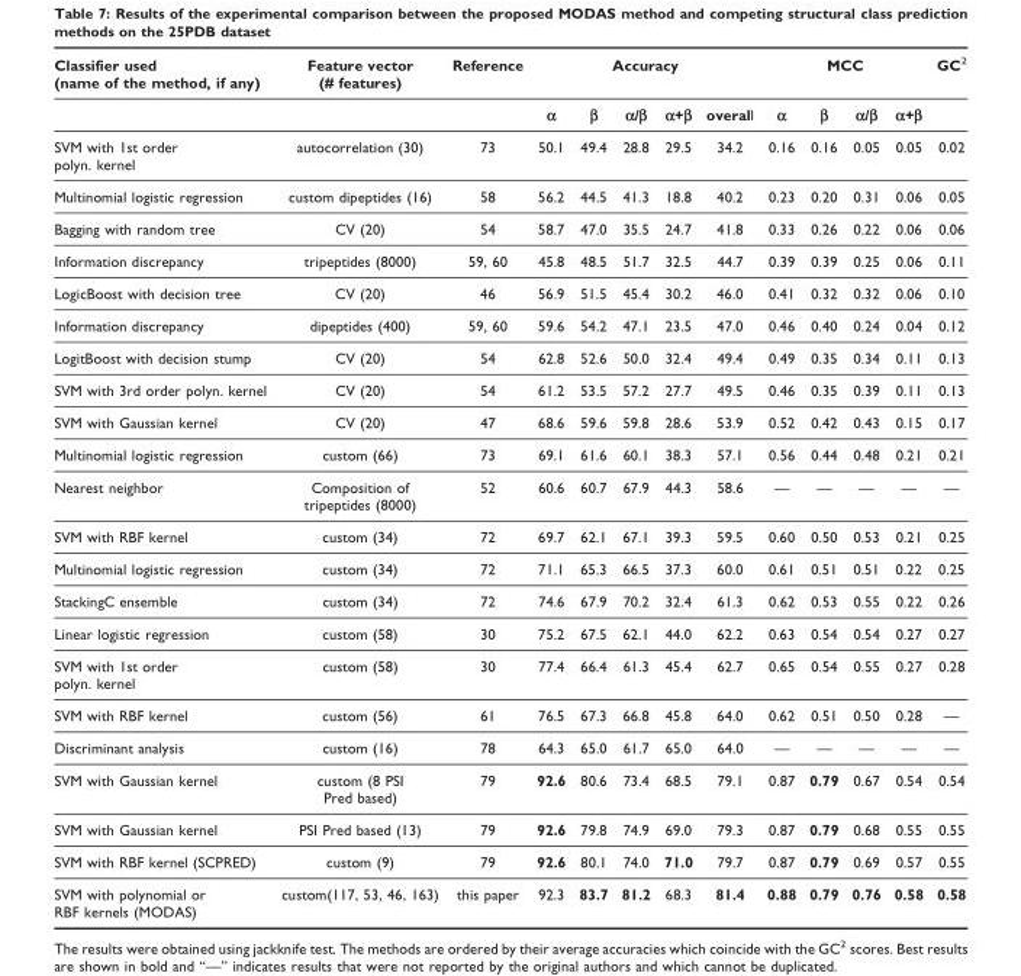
<table><thead><tr><td rowspan="2">Classifier used (name of the method, if any)</td><td rowspan="2">Feature vector (# features)</td><td rowspan="2">Reference</td><td colspan="5">Accuracy</td><td colspan="4">MCC</td><td rowspan="2">GC2</td></tr><tr><td>α</td><td>β</td><td>α/β</td><td>α+β</td><td>overall</td><td>α</td><td>β</td><td>α/β</td><td>α+β</td></tr></thead><tbody><tr><td>SVM with 1st order polyn. kernel</td><td>autocorrelation (30)</td><td>73</td><td>50.1</td><td>49.4</td><td>28.8</td><td>29.5</td><td>34.2</td><td>0.16</td><td>0.16</td><td>0.05</td><td>0.05</td><td>0.02</td></tr><tr><td>Multinomial logistic regression</td><td>custom dipeptides (16)</td><td>58</td><td>56.2</td><td>44.5</td><td>41.3</td><td>18.8</td><td>40.2</td><td>0.23</td><td>0.20</td><td>0.31</td><td>0.06</td><td>0.05</td></tr><tr><td>Bagging with random tree</td><td>CV (20)</td><td>54</td><td>58.7</td><td>47.0</td><td>35.5</td><td>24.7</td><td>41.8</td><td>0.33</td><td>0.26</td><td>0.22</td><td>0.06</td><td>0.06</td></tr><tr><td>Information discrepancy</td><td>tripeptides (8000)</td><td>59, 60</td><td>45.8</td><td>48.5</td><td>51.7</td><td>32.5</td><td>44.7</td><td>0.39</td><td>0.39</td><td>0.25</td><td>0.06</td><td>0.11</td></tr><tr><td>LogicBoost with decision tree</td><td>CV (20)</td><td>46</td><td>56.9</td><td>51.5</td><td>45.4</td><td>30.2</td><td>46.0</td><td>0.41</td><td>0.32</td><td>0.32</td><td>0.06</td><td>0.10</td></tr><tr><td>Information discrepancy</td><td>dipeptides (400)</td><td>59, 60</td><td>59.6</td><td>54.2</td><td>47.1</td><td>23.5</td><td>47.0</td><td>0.46</td><td>0.40</td><td>0.24</td><td>0.04</td><td>0.12</td></tr><tr><td>LogitBoost with decision stump</td><td>CV (20)</td><td>54</td><td>62.8</td><td>52.6</td><td>50.0</td><td>32.4</td><td>49.4</td><td>0.49</td><td>0.35</td><td>0.34</td><td>0.11</td><td>0.13</td></tr><tr><td>SVM with 3rd order polyn. kernel</td><td>CV (20)</td><td>54</td><td>61.2</td><td>53.5</td><td>57.2</td><td>27.7</td><td>49.5</td><td>0.46</td><td>0.35</td><td>0.39</td><td>0.11</td><td>0.13</td></tr><tr><td>SVM with Gaussian kernel</td><td>CV (20)</td><td>47</td><td>68.6</td><td>59.6</td><td>59.8</td><td>28.6</td><td>53.9</td><td>0.52</td><td>0.42</td><td>0.43</td><td>0.15</td><td>0.17</td></tr><tr><td>Multinomial logistic regression</td><td>custom (66)</td><td>73</td><td>69.1</td><td>61.6</td><td>60.1</td><td>38.3</td><td>57.1</td><td>0.56</td><td>0.44</td><td>0.48</td><td>0.21</td><td>0.21</td></tr><tr><td>Nearest neighbor</td><td>Composition of tripeptides (8000)</td><td>52</td><td>60.6</td><td>60.7</td><td>67.9</td><td>44.3</td><td>58.6</td><td>—</td><td>—</td><td>—</td><td>—</td><td>—</td></tr><tr><td>SVM with RBF kernel</td><td>custom (34)</td><td>72</td><td>69.7</td><td>62.1</td><td>67.1</td><td>39.3</td><td>59.5</td><td>0.60</td><td>0.50</td><td>0.53</td><td>0.21</td><td>0.25</td></tr><tr><td>Multinomial logistic regression</td><td>custom (34)</td><td>72</td><td>71.1</td><td>65.3</td><td>66.5</td><td>37.3</td><td>60.0</td><td>0.61</td><td>0.51</td><td>0.51</td><td>0.22</td><td>0.25</td></tr><tr><td>StackingC ensemble</td><td>custom (34)</td><td>72</td><td>74.6</td><td>67.9</td><td>70.2</td><td>32.4</td><td>61.3</td><td>0.62</td><td>0.53</td><td>0.55</td><td>0.22</td><td>0.26</td></tr><tr><td>Linear logistic regression</td><td>custom (58)</td><td>30</td><td>75.2</td><td>67.5</td><td>62.1</td><td>44.0</td><td>62.2</td><td>0.63</td><td>0.54</td><td>0.54</td><td>0.27</td><td>0.27</td></tr><tr><td>SVM with 1st order polyn. kernel</td><td>custom (58)</td><td>30</td><td>77.4</td><td>66.4</td><td>61.3</td><td>45.4</td><td>62.7</td><td>0.65</td><td>0.54</td><td>0.55</td><td>0.27</td><td>0.28</td></tr><tr><td>SVM with RBF kernel</td><td>custom (56)</td><td>61</td><td>76.5</td><td>67.3</td><td>66.8</td><td>45.8</td><td>64.0</td><td>0.62</td><td>0.51</td><td>0.50</td><td>0.28</td><td>—</td></tr><tr><td>Discriminant analysis</td><td>custom (16)</td><td>78</td><td>64.3</td><td>65.0</td><td>61.7</td><td>65.0</td><td>64.0</td><td>—</td><td>—</td><td>—</td><td>—</td><td>—</td></tr><tr><td>SVM with Gaussian kernel</td><td>custom (8 PSI Pred based)</td><td>79</td><td>92.6</td><td>80.6</td><td>73.4</td><td>68.5</td><td>79.1</td><td>0.87</td><td>0.79</td><td>0.67</td><td>0.54</td><td>0.54</td></tr><tr><td>SVM with Gaussian kernel</td><td>PSI Pred based (13)</td><td>79</td><td>92.6</td><td>79.8</td><td>74.9</td><td>69.0</td><td>79.3</td><td>0.87</td><td>0.79</td><td>0.68</td><td>0.55</td><td>0.55</td></tr><tr><td>SVM with RBF kernel (SCPRED)</td><td>custom (9)</td><td>79</td><td>92.6</td><td>80.1</td><td>74.0</td><td>71.0</td><td>79.7</td><td>0.87</td><td>0.79</td><td>0.69</td><td>0.57</td><td>0.55</td></tr><tr><td>SVM with polynomial or RBF kernels (MODAS)</td><td>custom(117, 53, 46, 163)</td><td>this paper</td><td>92.3</td><td>83.7</td><td>81.2</td><td>68.3</td><td>81.4</td><td>0.88</td><td>0.79</td><td>0.76</td><td>0.58</td><td>0.58</td></tr></tbody></table>